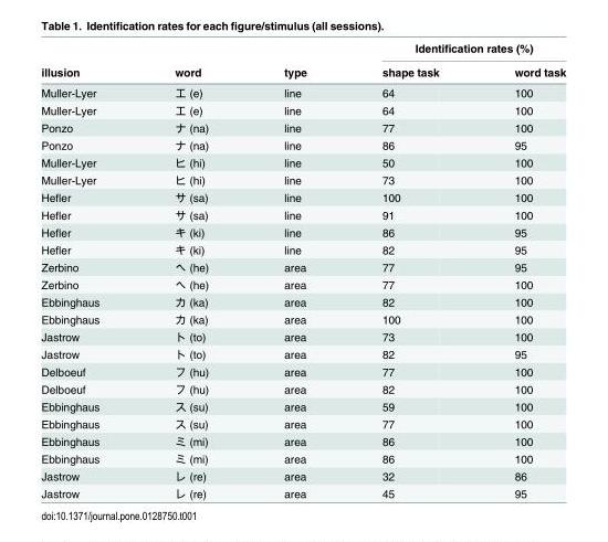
<table><thead><tr><td rowspan="2">illusion</td><td rowspan="2">word</td><td rowspan="2">type</td><td colspan="2">Identification rates (%)</td></tr><tr><td>shape task</td><td>word task</td></tr></thead><tbody><tr><td>Muller-Lyer</td><td>エ (e)</td><td>line</td><td>64</td><td>100</td></tr><tr><td>Muller-Lyer</td><td>エ (e)</td><td>line</td><td>64</td><td>100</td></tr><tr><td>Ponzo</td><td>ナ (na)</td><td>line</td><td>77</td><td>100</td></tr><tr><td>Ponzo</td><td>ナ (na)</td><td>line</td><td>86</td><td>95</td></tr><tr><td>Muller-Lyer</td><td>ヒ (hi)</td><td>line</td><td>50</td><td>100</td></tr><tr><td>Muller-Lyer</td><td>ヒ (hi)</td><td>line</td><td>73</td><td>100</td></tr><tr><td>Hefler</td><td>サ (sa)</td><td>line</td><td>100</td><td>100</td></tr><tr><td>Hefler</td><td>サ (sa)</td><td>line</td><td>91</td><td>100</td></tr><tr><td>Hefler</td><td>キ (ki)</td><td>line</td><td>86</td><td>95</td></tr><tr><td>Hefler</td><td>キ (ki)</td><td>line</td><td>82</td><td>95</td></tr><tr><td>Zerbino</td><td>へ (he)</td><td>area</td><td>77</td><td>95</td></tr><tr><td>Zerbino</td><td>へ (he)</td><td>area</td><td>77</td><td>100</td></tr><tr><td>Ebbinghaus</td><td>カ (ka)</td><td>area</td><td>82</td><td>100</td></tr><tr><td>Ebbinghaus</td><td>カ (ka)</td><td>area</td><td>100</td><td>100</td></tr><tr><td>Jastrow</td><td>ト (to)</td><td>area</td><td>73</td><td>100</td></tr><tr><td>Jastrow</td><td>ト (to)</td><td>area</td><td>82</td><td>95</td></tr><tr><td>Delboeuf</td><td>フ (hu)</td><td>area</td><td>77</td><td>100</td></tr><tr><td>Delboeuf</td><td>フ (hu)</td><td>area</td><td>82</td><td>100</td></tr><tr><td>Ebbinghaus</td><td>ス (su)</td><td>area</td><td>59</td><td>100</td></tr><tr><td>Ebbinghaus</td><td>ス (su)</td><td>area</td><td>77</td><td>100</td></tr><tr><td>Ebbinghaus</td><td>ミ (mi)</td><td>area</td><td>86</td><td>100</td></tr><tr><td>Ebbinghaus</td><td>ミ (mi)</td><td>area</td><td>86</td><td>100</td></tr><tr><td>Jastrow</td><td>レ (re)</td><td>area</td><td>32</td><td>86</td></tr><tr><td>Jastrow</td><td>レ (re)</td><td>area</td><td>45</td><td>95</td></tr></tbody></table>